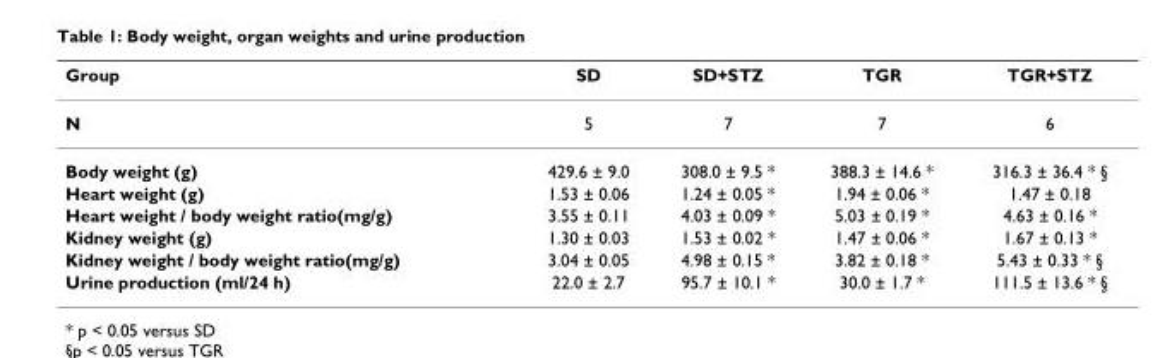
<table><thead><tr><td>Group</td><td>SD</td><td>SD+STZ</td><td>TGR</td><td>TGR+STZ</td></tr></thead><tbody><tr><td>N</td><td>5</td><td>7</td><td>7</td><td>6</td></tr><tr><td>Body weight (g)</td><td>429.6 ± 9.0</td><td>308.0 ± 9.5 *</td><td>388.3 ± 14.6 *</td><td>316.3 ± 36.4 * §</td></tr><tr><td>Heart weight (g)</td><td>1.53 ± 0.06</td><td>1.24 ± 0.05 *</td><td>1.94 ± 0.06 *</td><td>1.47 ± 0.18</td></tr><tr><td>Heart weight / body weight ratio(mg/g)</td><td>3.55 ± 0.11</td><td>4.03 ± 0.09 *</td><td>5.03 ± 0.19 *</td><td>4.63 ± 0.16 *</td></tr><tr><td>Kidney weight (g)</td><td>1.30 ± 0.03</td><td>1.53 ± 0.02 *</td><td>1.47 ± 0.06 *</td><td>1.67 ± 0.13 *</td></tr><tr><td>Kidney weight / body weight ratio(mg/g)</td><td>3.04 ± 0.05</td><td>4.98 ± 0.15 *</td><td>3.82 ± 0.18 *</td><td>5.43 ± 0.33 * §</td></tr><tr><td>Urine production (ml/24 h)</td><td>22.0 ± 2.7</td><td>95.7 ± 10.1 *</td><td>30.0 ± 1.7 *</td><td>111.5 ± 13.6 * §</td></tr></tbody></table>